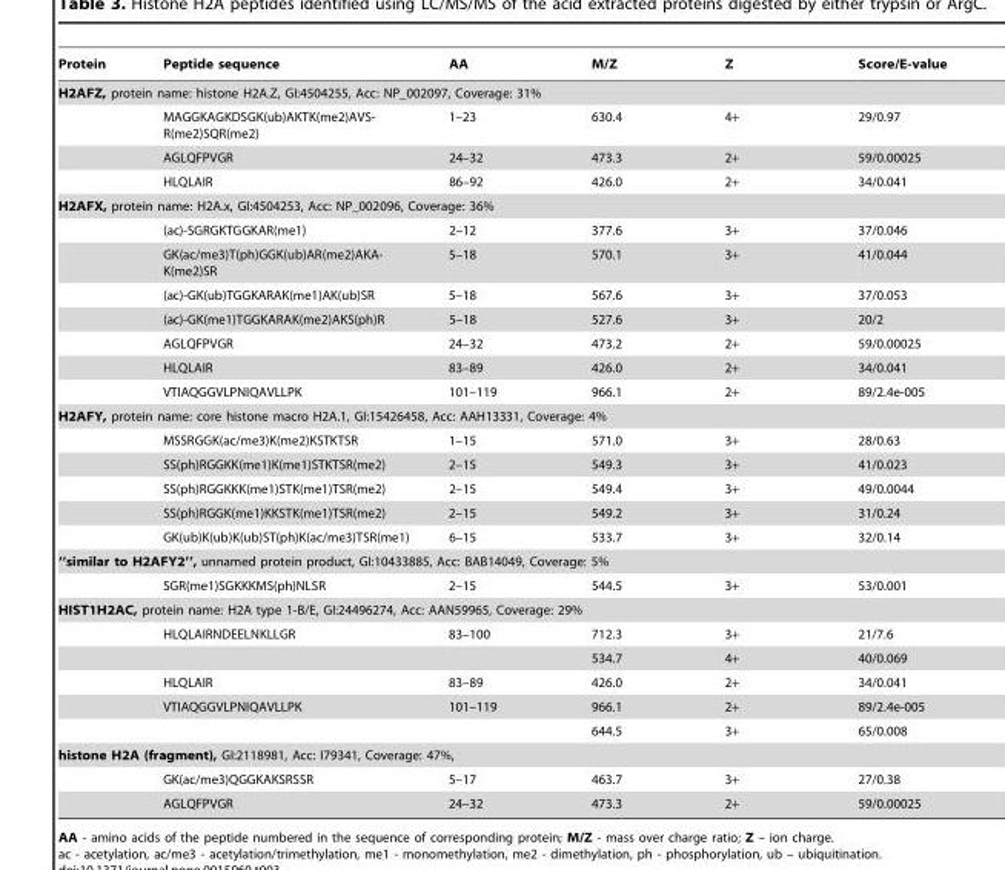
<table><thead><tr><td>Protein</td><td>Peptide sequence</td><td>AA</td><td>M/Z</td><td>Z</td><td>Score/E-value</td></tr></thead><tbody><tr><td colspan="6">H2AFZ, protein name: histone H2A.Z, GI:4504255, Acc: NP_002097, Coverage: 31%</td></tr><tr><td></td><td>MAGGKAGKDSGK(ub)AKTK(me2)AVS- R(me2)SQR(me2)</td><td>1–23</td><td>630.4</td><td>4+</td><td>29/0.97</td></tr><tr><td></td><td>AGLQFPVGR</td><td>24–32</td><td>473.3</td><td>2+</td><td>59/0.00025</td></tr><tr><td></td><td>HLQLAIR</td><td>86–92</td><td>426.0</td><td>2+</td><td>34/0.041</td></tr><tr><td colspan="6">H2AFX, protein name: H2A.x, GI:4504253, Acc: NP_002096, Coverage: 36%</td></tr><tr><td></td><td>(ac)-SGRGKTGGKAR(me1)</td><td>2–12</td><td>377.6</td><td>3+</td><td>37/0.046</td></tr><tr><td></td><td>GK(ac/me3)T(ph)GGK(ub)AR(me2)AKA- K(me2)SR</td><td>5–18</td><td>570.1</td><td>3+</td><td>41/0.044</td></tr><tr><td></td><td>(ac)-GK(ub)TGGKARAK(me1)AK(ub)SR</td><td>5–18</td><td>567.6</td><td>3+</td><td>37/0.053</td></tr><tr><td></td><td>(ac)-GK(me1)TGGKARAK(me2)AKS(ph)R</td><td>5–18</td><td>527.6</td><td>3+</td><td>20/2</td></tr><tr><td></td><td>AGLQFPVGR</td><td>24–32</td><td>473.2</td><td>2+</td><td>59/0.00025</td></tr><tr><td></td><td>HLQLAIR</td><td>83–89</td><td>426.0</td><td>2+</td><td>34/0.041</td></tr><tr><td></td><td>VTIAQGGVLPNIQAVLLPK</td><td>101–119</td><td>966.1</td><td>2+</td><td>89/2.4e-005</td></tr><tr><td colspan="6">H2AFY, protein name: core histone macro H2A.1, GI:15426458, Acc: AAH13331, Coverage: 4%</td></tr><tr><td></td><td>MSSRGGK(ac/me3)K(me2)KSTKTSR</td><td>1–15</td><td>571.0</td><td>3+</td><td>28/0.63</td></tr><tr><td></td><td>SS(ph)RGGKK(me1)K(me1)STKTSR(me2)</td><td>2–15</td><td>549.3</td><td>3+</td><td>41/0.023</td></tr><tr><td></td><td>SS(ph)RGGKKK(me1)STK(me1)TSR(me2)</td><td>2–15</td><td>549.4</td><td>3+</td><td>49/0.0044</td></tr><tr><td></td><td>SS(ph)RGGK(me1)KKSTK(me1)TSR(me2)</td><td>2–15</td><td>549.2</td><td>3+</td><td>31/0.24</td></tr><tr><td></td><td>GK(ub)K(ub)K(ub)ST(ph)K(ac/me3)TSR(me1)</td><td>6–15</td><td>533.7</td><td>3+</td><td>32/0.14</td></tr><tr><td colspan="6">‘‘similar to H2AFY2’’, unnamed protein product, GI:10433885, Acc: BAB14049, Coverage: 5%</td></tr><tr><td></td><td>SGR(me1)SGKKKMS(ph)NLSR</td><td>2–15</td><td>544.5</td><td>3+</td><td>53/0.001</td></tr><tr><td colspan="6">HIST1H2AC, protein name: H2A type 1-B/E, GI:24496274, Acc: AAN59965, Coverage: 29%</td></tr><tr><td></td><td>HLQLAIRNDEELNKLLGR</td><td>83–100</td><td>712.3</td><td>3+</td><td>21/7.6</td></tr><tr><td></td><td></td><td></td><td>534.7</td><td>4+</td><td>40/0.069</td></tr><tr><td></td><td>HLQLAIR</td><td>83–89</td><td>426.0</td><td>2+</td><td>34/0.041</td></tr><tr><td></td><td>VTIAQGGVLPNIQAVLLPK</td><td>101–119</td><td>966.1</td><td>2+</td><td>89/2.4e-005</td></tr><tr><td></td><td></td><td></td><td>644.5</td><td>3+</td><td>65/0.008</td></tr><tr><td colspan="6">histone H2A (fragment), GI:2118981, Acc: I79341, Coverage: 47%,</td></tr><tr><td></td><td>GK(ac/me3)QGGKAKSRSSR</td><td>5–17</td><td>463.7</td><td>3+</td><td>27/0.38</td></tr><tr><td></td><td>AGLQFPVGR</td><td>24–32</td><td>473.3</td><td>2+</td><td>59/0.00025</td></tr></tbody></table>